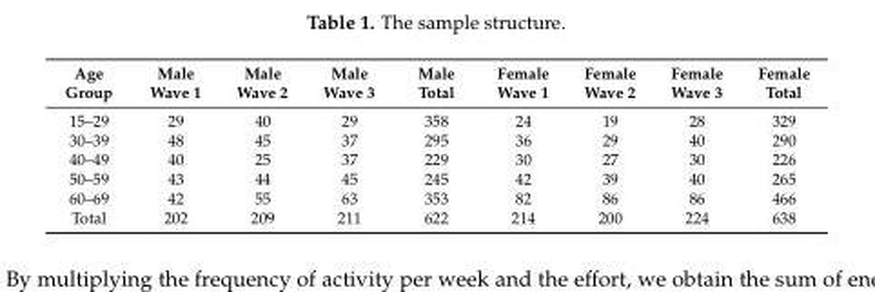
<table><thead><tr><td>Age Group</td><td>Male Wave 1</td><td>Male Wave 2</td><td>Male Wave 3</td><td>Male Total</td><td>Female Wave 1</td><td>Female Wave 2</td><td>Female Wave 3</td><td>Female Total</td></tr></thead><tbody><tr><td>15–29</td><td>29</td><td>40</td><td>29</td><td>358</td><td>24</td><td>19</td><td>28</td><td>329</td></tr><tr><td>30–39</td><td>48</td><td>45</td><td>37</td><td>295</td><td>36</td><td>29</td><td>40</td><td>290</td></tr><tr><td>40–49</td><td>40</td><td>25</td><td>37</td><td>229</td><td>30</td><td>27</td><td>30</td><td>226</td></tr><tr><td>50–59</td><td>43</td><td>44</td><td>45</td><td>245</td><td>42</td><td>39</td><td>40</td><td>265</td></tr><tr><td>60–69</td><td>42</td><td>55</td><td>63</td><td>353</td><td>82</td><td>86</td><td>86</td><td>466</td></tr><tr><td>Total</td><td>202</td><td>209</td><td>211</td><td>622</td><td>214</td><td>200</td><td>224</td><td>638</td></tr></tbody></table>